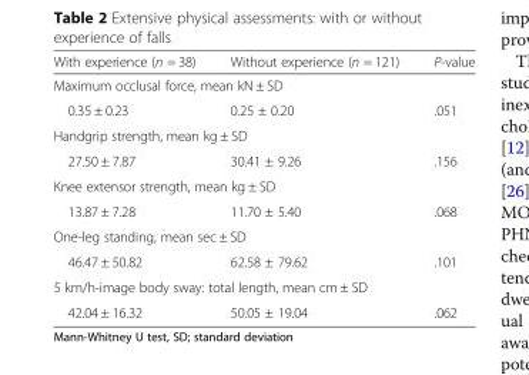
<table><thead><tr><td>With experience (n = 38)</td><td>Without experience (n = 121)</td><td>P-value</td></tr></thead><tbody><tr><td colspan="3">Maximum occlusal force, mean kN ± SD</td></tr><tr><td>0.35 ± 0.23</td><td>0.25 ± 0.20</td><td>.051</td></tr><tr><td colspan="3">Handgrip strength, mean kg ± SD</td></tr><tr><td>27.50 ± 7.87</td><td>30.41 ± 9.26</td><td>.156</td></tr><tr><td colspan="3">Knee extensor strength, mean kg ± SD</td></tr><tr><td>13.87 ± 7.28</td><td>11.70 ± 5.40</td><td>.068</td></tr><tr><td colspan="3">One-leg standing, mean sec ± SD</td></tr><tr><td>46.47 ± 50.82</td><td>62.58 ± 79.62</td><td>.101</td></tr><tr><td colspan="3">5 km/h-image body sway: total length, mean cm ± SD</td></tr><tr><td>42.04 ± 16.32</td><td>50.05 ± 19.04</td><td>.062</td></tr></tbody></table>